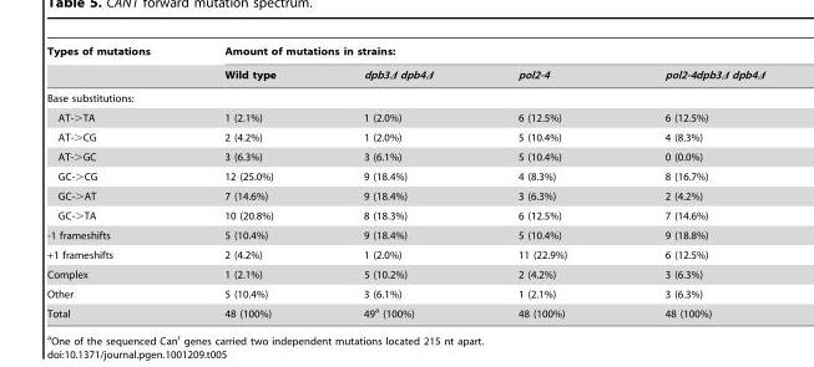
<table><thead><tr><td rowspan="2">Types of mutations</td><td colspan="4">Amount of mutations in strains:</td></tr><tr><td>Wild type</td><td>dpb3Δ dpb4Δ</td><td>pol2-4</td><td>pol2-4dpb3Δ dpb4Δ</td></tr></thead><tbody><tr><td colspan="5">Base substitutions:</td></tr><tr><td>AT-&gt;TA</td><td>1 (2.1%)</td><td>1 (2.0%)</td><td>6 (12.5%)</td><td>6 (12.5%)</td></tr><tr><td>AT-&gt;CG</td><td>2 (4.2%)</td><td>1 (2.0%)</td><td>5 (10.4%)</td><td>4 (8.3%)</td></tr><tr><td>AT-&gt;GC</td><td>3 (6.3%)</td><td>3 (6.1%)</td><td>5 (10.4%)</td><td>0 (0.0%)</td></tr><tr><td>GC-&gt;CG</td><td>12 (25.0%)</td><td>9 (18.4%)</td><td>4 (8.3%)</td><td>8 (16.7%)</td></tr><tr><td>GC-&gt;AT</td><td>7 (14.6%)</td><td>9 (18.4%)</td><td>3 (6.3%)</td><td>2 (4.2%)</td></tr><tr><td>GC-&gt;TA</td><td>10 (20.8%)</td><td>8 (18.3%)</td><td>6 (12.5%)</td><td>7 (14.6%)</td></tr><tr><td>-1 frameshifts</td><td>5 (10.4%)</td><td>9 (18.4%)</td><td>5 (10.4%)</td><td>9 (18.8%)</td></tr><tr><td>+1 frameshifts</td><td>2 (4.2%)</td><td>1 (2.0%)</td><td>11 (22.9%)</td><td>6 (12.5%)</td></tr><tr><td>Complex</td><td>1 (2.1%)</td><td>5 (10.2%)</td><td>2 (4.2%)</td><td>3 (6.3%)</td></tr><tr><td>Other</td><td>5 (10.4%)</td><td>3 (6.1%)</td><td>1 (2.1%)</td><td>3 (6.3%)</td></tr><tr><td>Total</td><td>48 (100%)</td><td>49<sup>a</sup> (100%)</td><td>48 (100%)</td><td>48 (100%)</td></tr></tbody></table>